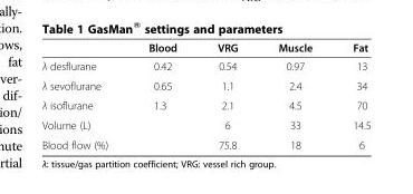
<table><thead><tr><td></td><td>Blood</td><td>VRG</td><td>Muscle</td><td>Fat</td></tr></thead><tbody><tr><td>λ desflurane</td><td>0.42</td><td>0.54</td><td>0.97</td><td>13</td></tr><tr><td>λ sevoflurane</td><td>0.65</td><td>1.1</td><td>2.4</td><td>34</td></tr><tr><td>λ isoflurane</td><td>1.3</td><td>2.1</td><td>4.5</td><td>70</td></tr><tr><td>Volume (L)</td><td></td><td>6</td><td>33</td><td>14.5</td></tr><tr><td>Blood flow (%)</td><td></td><td>75.8</td><td>18</td><td>6</td></tr></tbody></table>